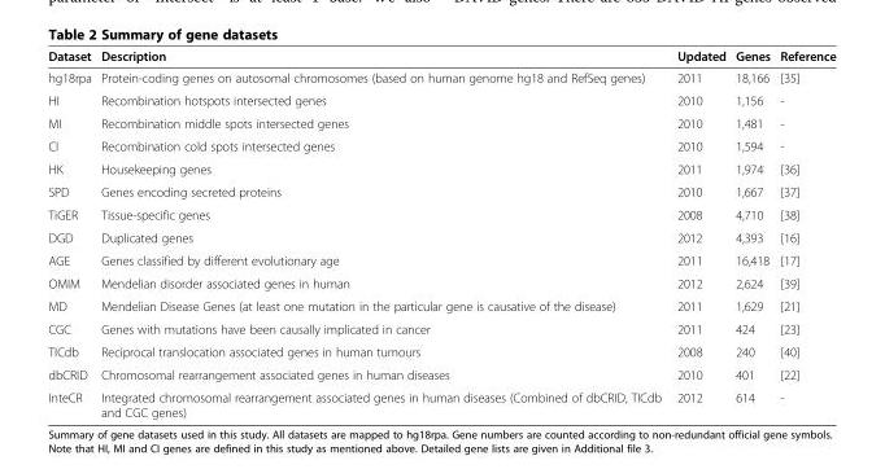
<table><thead><tr><td>Dataset</td><td>Description</td><td>Updated</td><td>Genes</td><td>Reference</td></tr></thead><tbody><tr><td>hg18rpa</td><td>Protein-coding genes on autosomal chromosomes (based on human genome hg18 and RefSeq genes)</td><td>2011</td><td>18,166</td><td>[35]</td></tr><tr><td>HI</td><td>Recombination hotspots intersected genes</td><td>2010</td><td>1,156</td><td>-</td></tr><tr><td>MI</td><td>Recombination middle spots intersected genes</td><td>2010</td><td>1,481</td><td>-</td></tr><tr><td>CI</td><td>Recombination cold spots intersected genes</td><td>2010</td><td>1,594</td><td>-</td></tr><tr><td>HK</td><td>Housekeeping genes</td><td>2011</td><td>1,974</td><td>[36]</td></tr><tr><td>SPD</td><td>Genes encoding secreted proteins</td><td>2010</td><td>1,667</td><td>[37]</td></tr><tr><td>TiGER</td><td>Tissue-specific genes</td><td>2008</td><td>4,710</td><td>[38]</td></tr><tr><td>DGD</td><td>Duplicated genes</td><td>2012</td><td>4,393</td><td>[16]</td></tr><tr><td>AGE</td><td>Genes classified by different evolutionary age</td><td>2011</td><td>16,418</td><td>[17]</td></tr><tr><td>OMIM</td><td>Mendelian disorder associated genes in human</td><td>2012</td><td>2,624</td><td>[39]</td></tr><tr><td>MD</td><td>Mendelian Disease Genes (at least one mutation in the particular gene is causative of the disease)</td><td>2011</td><td>1,629</td><td>[21]</td></tr><tr><td>CGC</td><td>Genes with mutations have been causally implicated in cancer</td><td>2011</td><td>424</td><td>[23]</td></tr><tr><td>TICdb</td><td>Reciprocal translocation associated genes in human tumours</td><td>2008</td><td>240</td><td>[40]</td></tr><tr><td>dbCRID</td><td>Chromosomal rearrangement associated genes in human diseases</td><td>2010</td><td>401</td><td>[22]</td></tr><tr><td>InteCR</td><td>Integrated chromosomal rearrangement associated genes in human diseases (Combined of dbCRID, TICdb and CGC genes)</td><td>2012</td><td>614</td><td>-</td></tr></tbody></table>